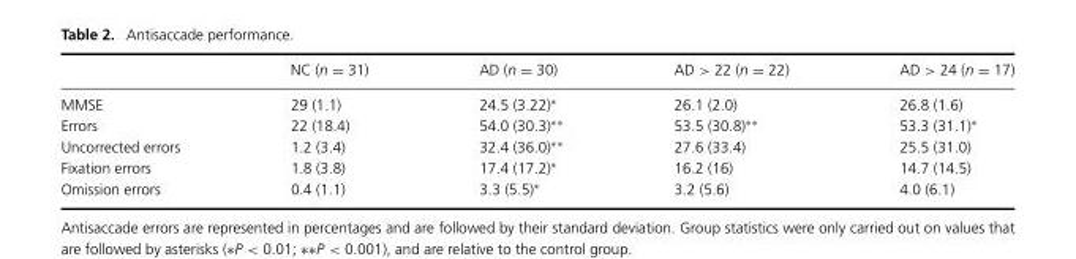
<table><thead><tr><td></td><td>NC (n = 31)</td><td>AD (n = 30)</td><td>AD &gt; 22 (n = 22)</td><td>AD &gt; 24 (n = 17)</td></tr></thead><tbody><tr><td>MMSE</td><td>29 (1.1)</td><td>24.5 (3.22)∗</td><td>26.1 (2.0)</td><td>26.8 (1.6)</td></tr><tr><td>Errors</td><td>22 (18.4)</td><td>54.0 (30.3)∗∗</td><td>53.5 (30.8)∗∗</td><td>53.3 (31.1)∗</td></tr><tr><td>Uncorrected errors</td><td>1.2 (3.4)</td><td>32.4 (36.0)∗∗</td><td>27.6 (33.4)</td><td>25.5 (31.0)</td></tr><tr><td>Fixation errors</td><td>1.8 (3.8)</td><td>17.4 (17.2)∗</td><td>16.2 (16)</td><td>14.7 (14.5)</td></tr><tr><td>Omission errors</td><td>0.4 (1.1)</td><td>3.3 (5.5)∗</td><td>3.2 (5.6)</td><td>4.0 (6.1)</td></tr></tbody></table>